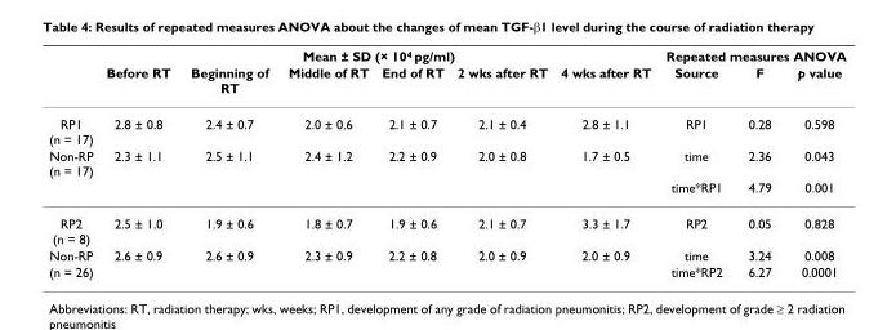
<table><thead><tr><td rowspan="2"></td><td colspan="6">Mean ± SD (× 10<sup>4</sup> pg/ml)</td><td colspan="3">Repeated measures ANOVA</td></tr><tr><td>Before RT</td><td>Beginning of RT</td><td>Middle of RT</td><td>End of RT</td><td>2 wks after RT</td><td>4 wks after RT</td><td>Source</td><td>F</td><td>p value</td></tr></thead><tbody><tr><td>RP1 (n = 17)</td><td>2.8 ± 0.8</td><td>2.4 ± 0.7</td><td>2.0 ± 0.6</td><td>2.1 ± 0.7</td><td>2.1 ± 0.4</td><td>2.8 ± 1.1</td><td>RP1</td><td>0.28</td><td>0.598</td></tr><tr><td rowspan="2">Non-RP (n = 17)</td><td>2.3 ± 1.1</td><td>2.5 ± 1.1</td><td>2.4 ± 1.2</td><td>2.2 ± 0.9</td><td>2.0 ± 0.8</td><td>1.7 ± 0.5</td><td>time</td><td>2.36</td><td>0.043</td></tr><tr><td></td><td></td><td></td><td></td><td></td><td></td><td>time*RP1</td><td>4.79</td><td>0.001</td></tr><tr><td>RP2 (n = 8)</td><td>2.5 ± 1.0</td><td>1.9 ± 0.6</td><td>1.8 ± 0.7</td><td>1.9 ± 0.6</td><td>2.1 ± 0.7</td><td>3.3 ± 1.7</td><td>RP2</td><td>0.05</td><td>0.828</td></tr><tr><td>Non-RP</td><td>2.6 ± 0.9</td><td>2.6 ± 0.9</td><td>2.3 ± 0.9</td><td>2.2 ± 0.8</td><td>2.0 ± 0.9</td><td>2.0 ± 0.9</td><td>time</td><td>3.24</td><td>0.008</td></tr><tr><td>(n = 26)</td><td></td><td></td><td></td><td></td><td></td><td></td><td>time*RP2</td><td>6.27</td><td>0.0001</td></tr></tbody></table>